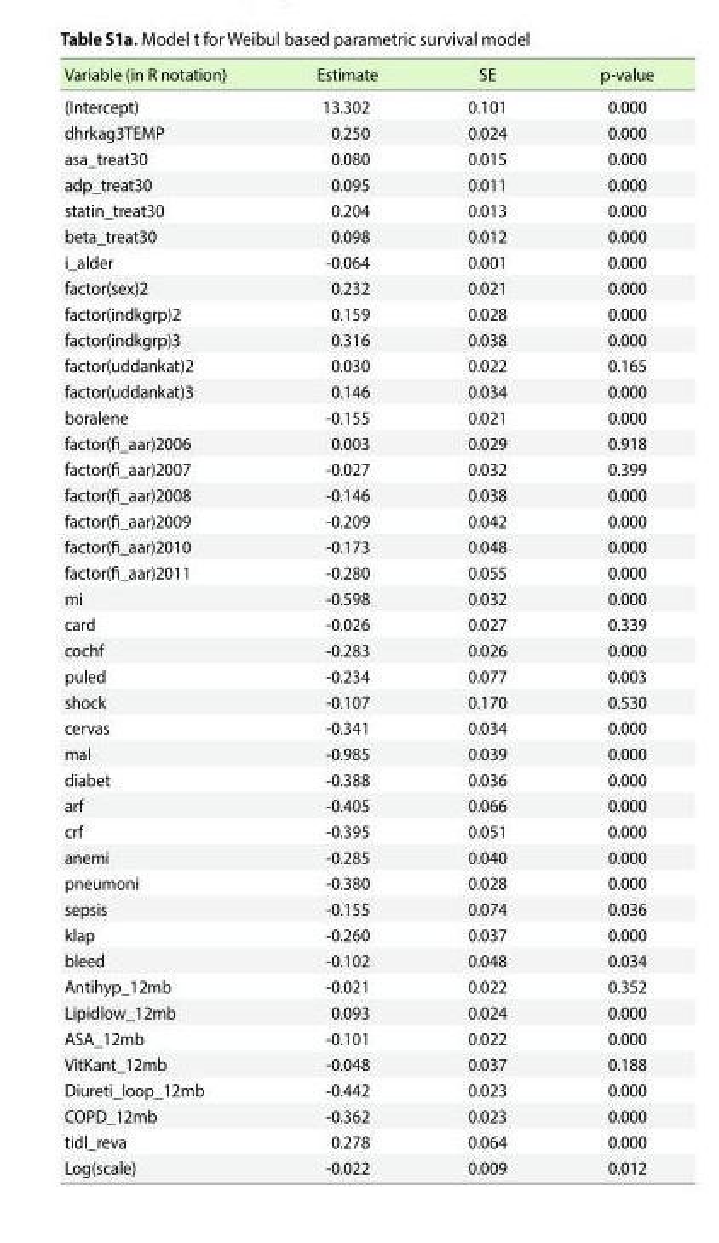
<table><thead><tr><td>Variable (in R notation)</td><td>Estimate</td><td>SE</td><td>p-value</td></tr></thead><tbody><tr><td>(Intercept)</td><td>13.302</td><td>0.101</td><td>0.000</td></tr><tr><td>dhrkag3TEMP</td><td>0.250</td><td>0.024</td><td>0.000</td></tr><tr><td>asa_treat30</td><td>0.080</td><td>0.015</td><td>0.000</td></tr><tr><td>adp_treat30</td><td>0.095</td><td>0.011</td><td>0.000</td></tr><tr><td>statin_treat30</td><td>0.204</td><td>0.013</td><td>0.000</td></tr><tr><td>beta_treat30</td><td>0.098</td><td>0.012</td><td>0.000</td></tr><tr><td>i_alder</td><td>-0.064</td><td>0.001</td><td>0.000</td></tr><tr><td>factor(sex)2</td><td>0.232</td><td>0.021</td><td>0.000</td></tr><tr><td>factor(indkgrp)2</td><td>0.159</td><td>0.028</td><td>0.000</td></tr><tr><td>factor(indkgrp)3</td><td>0.316</td><td>0.038</td><td>0.000</td></tr><tr><td>factor(uddankat)2</td><td>0.030</td><td>0.022</td><td>0.165</td></tr><tr><td>factor(uddankat)3</td><td>0.146</td><td>0.034</td><td>0.000</td></tr><tr><td>boralene</td><td>-0.155</td><td>0.021</td><td>0.000</td></tr><tr><td>factor(fi_aar)2006</td><td>0.003</td><td>0.029</td><td>0.918</td></tr><tr><td>factor(fi_aar)2007</td><td>-0.027</td><td>0.032</td><td>0.399</td></tr><tr><td>factor(fi_aar)2008</td><td>-0.146</td><td>0.038</td><td>0.000</td></tr><tr><td>factor(fi_aar)2009</td><td>-0.209</td><td>0.042</td><td>0.000</td></tr><tr><td>factor(fi_aar)2010</td><td>-0.173</td><td>0.048</td><td>0.000</td></tr><tr><td>factor(fi_aar)2011</td><td>-0.280</td><td>0.055</td><td>0.000</td></tr><tr><td>mi</td><td>-0.598</td><td>0.032</td><td>0.000</td></tr><tr><td>card</td><td>-0.026</td><td>0.027</td><td>0.339</td></tr><tr><td>cochf</td><td>-0.283</td><td>0.026</td><td>0.000</td></tr><tr><td>puled</td><td>-0.234</td><td>0.077</td><td>0.003</td></tr><tr><td>shock</td><td>-0.107</td><td>0.170</td><td>0.530</td></tr><tr><td>cervas</td><td>-0.341</td><td>0.034</td><td>0.000</td></tr><tr><td>mal</td><td>-0.985</td><td>0.039</td><td>0.000</td></tr><tr><td>diabet</td><td>-0.388</td><td>0.036</td><td>0.000</td></tr><tr><td>arf</td><td>-0.405</td><td>0.066</td><td>0.000</td></tr><tr><td>crf</td><td>-0.395</td><td>0.051</td><td>0.000</td></tr><tr><td>anemi</td><td>-0.285</td><td>0.040</td><td>0.000</td></tr><tr><td>pneumoni</td><td>-0.380</td><td>0.028</td><td>0.000</td></tr><tr><td>sepsis</td><td>-0.155</td><td>0.074</td><td>0.036</td></tr><tr><td>klap</td><td>-0.260</td><td>0.037</td><td>0.000</td></tr><tr><td>bleed</td><td>-0.102</td><td>0.048</td><td>0.034</td></tr><tr><td>Antihyp_12mb</td><td>-0.021</td><td>0.022</td><td>0.352</td></tr><tr><td>Lipidlow_12mb</td><td>0.093</td><td>0.024</td><td>0.000</td></tr><tr><td>ASA_12mb</td><td>-0.101</td><td>0.022</td><td>0.000</td></tr><tr><td>VitKant_12mb</td><td>-0.048</td><td>0.037</td><td>0.188</td></tr><tr><td>Diureti_loop_12mb</td><td>-0.442</td><td>0.023</td><td>0.000</td></tr><tr><td>COPD_12mb</td><td>-0.362</td><td>0.023</td><td>0.000</td></tr><tr><td>tidl_reva</td><td>0.278</td><td>0.064</td><td>0.000</td></tr><tr><td>Log(scale)</td><td>-0.022</td><td>0.009</td><td>0.012</td></tr></tbody></table>